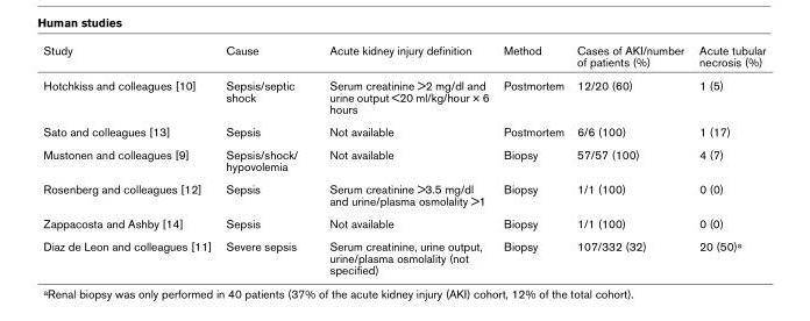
<table><thead><tr><td>Study</td><td>Cause</td><td>Acute kidney injury definition</td><td>Method</td><td>Cases of AKI/number of patients (%)</td><td>Acute tubular necrosis (%)</td></tr></thead><tbody><tr><td>Hotchkiss and colleagues [10]</td><td>Sepsis/septic shock</td><td>Serum creatinine &gt;2 mg/dl and urine output &lt;20 ml/kg/hour × 6 hours</td><td>Postmortem</td><td>12/20 (60)</td><td>1 (5)</td></tr><tr><td>Sato and colleagues [13]</td><td>Sepsis</td><td>Not available</td><td>Postmortem</td><td>6/6 (100)</td><td>1 (17)</td></tr><tr><td>Mustonen and colleagues [9]</td><td>Sepsis/shock/ hypovolemia</td><td>Not available</td><td>Biopsy</td><td>57/57 (100)</td><td>4 (7)</td></tr><tr><td>Rosenberg and colleagues [12]</td><td>Sepsis</td><td>Serum creatinine &gt;3.5 mg/dl and urine/plasma osmolality &gt;1</td><td>Biopsy</td><td>1/1 (100)</td><td>0 (0)</td></tr><tr><td>Zappacosta and Ashby [14]</td><td>Sepsis</td><td>Not available</td><td>Biopsy</td><td>1/1 (100)</td><td>0 (0)</td></tr><tr><td>Diaz de Leon and colleagues [11]</td><td>Severe sepsis</td><td>Serum creatinine, urine output, urine/plasma osmolality (not specified)</td><td>Biopsy</td><td>107/332 (32)</td><td>20 (50)<sup>a</sup></td></tr></tbody></table>